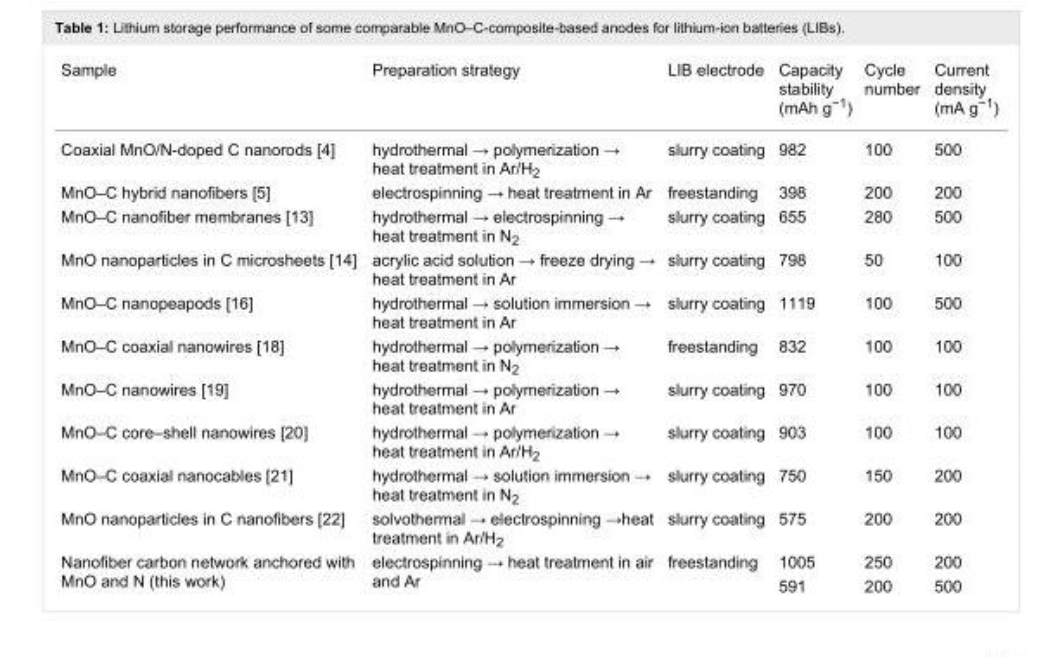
<table><tbody><tr><td>Sample</td><td>Preparation strategy</td><td>LIB electrode</td><td>Capacity stability (mAh g<sup>−1</sup>)</td><td>Cycle number</td><td>Current density (mA g<sup>−1</sup>)</td></tr><tr><td>Coaxial MnO/N-doped C nanorods [4]</td><td>hydrothermal → polymerization → heat treatment in Ar/H<sub>2</sub></td><td>slurry coating</td><td>982</td><td>100</td><td>500</td></tr><tr><td>MnO–C hybrid nanofibers [5]</td><td>electrospinning → heat treatment in Ar</td><td>freestanding</td><td>398</td><td>200</td><td>200</td></tr><tr><td>MnO–C nanofiber membranes [13]</td><td>hydrothermal → electrospinning → heat treatment in N<sub>2</sub></td><td>slurry coating</td><td>655</td><td>280</td><td>500</td></tr><tr><td>MnO nanoparticles in C microsheets [14]</td><td>acrylic acid solution → freeze drying → heat treatment in Ar</td><td>slurry coating</td><td>798</td><td>50</td><td>100</td></tr><tr><td>MnO–C nanopeapods [16]</td><td>hydrothermal → solution immersion → heat treatment in Ar</td><td>slurry coating</td><td>1119</td><td>100</td><td>500</td></tr><tr><td>MnO–C coaxial nanowires [18]</td><td>hydrothermal → polymerization → heat treatment in N<sub>2</sub></td><td>freestanding</td><td>832</td><td>100</td><td>100</td></tr><tr><td>MnO–C nanowires [19]</td><td>hydrothermal → polymerization → heat treatment in Ar</td><td>slurry coating</td><td>970</td><td>100</td><td>100</td></tr><tr><td>MnO–C core–shell nanowires [20]</td><td>hydrothermal → polymerization → heat treatment in Ar/H<sub>2</sub></td><td>slurry coating</td><td>903</td><td>100</td><td>100</td></tr><tr><td>MnO–C coaxial nanocables [21]</td><td>hydrothermal → solution immersion → heat treatment in N<sub>2</sub></td><td>slurry coating</td><td>750</td><td>150</td><td>200</td></tr><tr><td>MnO nanoparticles in C nanofibers [22]</td><td>solvothermal → electrospinning →heat treatment in Ar/H<sub>2</sub></td><td>slurry coating</td><td>575</td><td>200</td><td>200</td></tr><tr><td rowspan="2">Nanofiber carbon network anchored with MnO and N (this work)</td><td rowspan="2">electrospinning → heat treatment in air and Ar</td><td rowspan="2">freestanding</td><td>1005</td><td>250</td><td>200</td></tr><tr><td>591</td><td>200</td><td>500</td></tr></tbody></table>